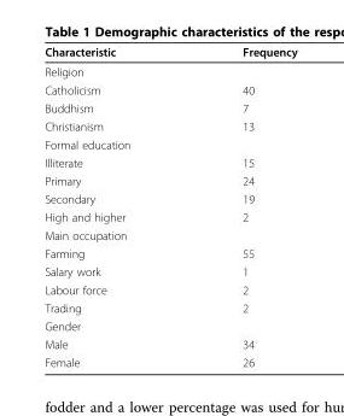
<table><thead><tr><td>Characteristic</td><td>Frequency</td></tr></thead><tbody><tr><td colspan="2">Religion</td></tr><tr><td>Catholicism</td><td>40</td></tr><tr><td>Buddhism</td><td>7</td></tr><tr><td>Christianism</td><td>13</td></tr><tr><td colspan="2">Formal education</td></tr><tr><td>Illiterate</td><td>15</td></tr><tr><td>Primary</td><td>24</td></tr><tr><td>Secondary</td><td>19</td></tr><tr><td>High and higher</td><td>2</td></tr><tr><td colspan="2">Main occupation</td></tr><tr><td>Farming</td><td>55</td></tr><tr><td>Salary work</td><td>1</td></tr><tr><td>Labour force</td><td>2</td></tr><tr><td>Trading</td><td>2</td></tr><tr><td colspan="2">Gender</td></tr><tr><td>Male</td><td>34</td></tr><tr><td>Female</td><td>26</td></tr></tbody></table>